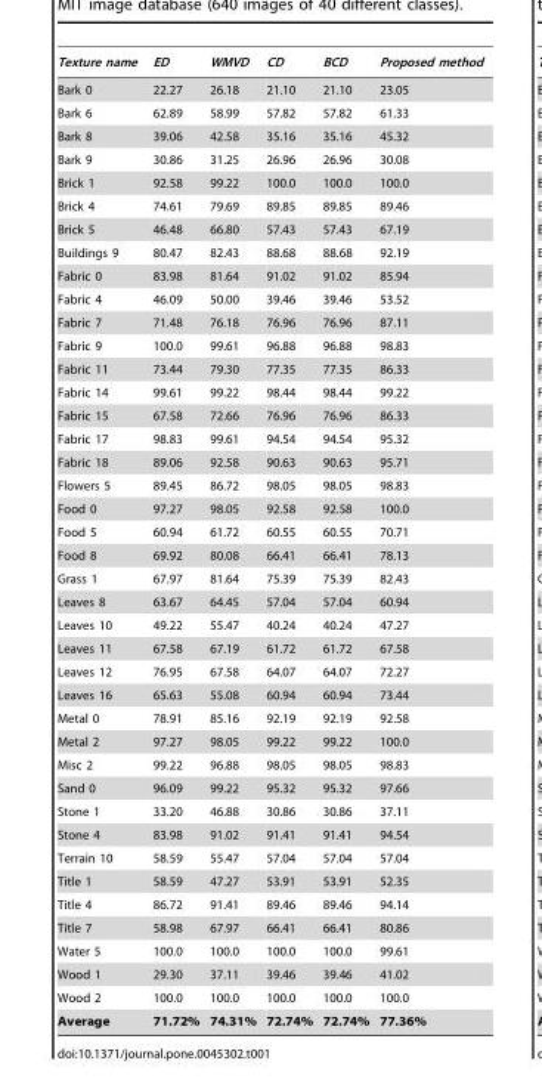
<table><thead><tr><td>Texture name</td><td>ED</td><td>WMVD</td><td>CD</td><td>BCD</td><td>Proposed method</td></tr></thead><tbody><tr><td>Bark 0</td><td>22.27</td><td>26.18</td><td>21.10</td><td>21.10</td><td>23.05</td></tr><tr><td>Bark 6</td><td>62.89</td><td>58.99</td><td>57.82</td><td>57.82</td><td>61.33</td></tr><tr><td>Bark 8</td><td>39.06</td><td>42.58</td><td>35.16</td><td>35.16</td><td>45.32</td></tr><tr><td>Bark 9</td><td>30.86</td><td>31.25</td><td>26.96</td><td>26.96</td><td>30.08</td></tr><tr><td>Brick 1</td><td>92.58</td><td>99.22</td><td>100.0</td><td>100.0</td><td>100.0</td></tr><tr><td>Brick 4</td><td>74.61</td><td>79.69</td><td>89.85</td><td>89.85</td><td>89.46</td></tr><tr><td>Brick 5</td><td>46.48</td><td>66.80</td><td>57.43</td><td>57.43</td><td>67.19</td></tr><tr><td>Buildings 9</td><td>80.47</td><td>82.43</td><td>88.68</td><td>88.68</td><td>92.19</td></tr><tr><td>Fabric 0</td><td>83.98</td><td>81.64</td><td>91.02</td><td>91.02</td><td>85.94</td></tr><tr><td>Fabric 4</td><td>46.09</td><td>50.00</td><td>39.46</td><td>39.46</td><td>53.52</td></tr><tr><td>Fabric 7</td><td>71.48</td><td>76.18</td><td>76.96</td><td>76.96</td><td>87.11</td></tr><tr><td>Fabric 9</td><td>100.0</td><td>99.61</td><td>96.88</td><td>96.88</td><td>98.83</td></tr><tr><td>Fabric 11</td><td>73.44</td><td>79.30</td><td>77.35</td><td>77.35</td><td>86.33</td></tr><tr><td>Fabric 14</td><td>99.61</td><td>99.22</td><td>98.44</td><td>98.44</td><td>99.22</td></tr><tr><td>Fabric 15</td><td>67.58</td><td>72.66</td><td>76.96</td><td>76.96</td><td>86.33</td></tr><tr><td>Fabric 17</td><td>98.83</td><td>99.61</td><td>94.54</td><td>94.54</td><td>95.32</td></tr><tr><td>Fabric 18</td><td>89.06</td><td>92.58</td><td>90.63</td><td>90.63</td><td>95.71</td></tr><tr><td>Flowers 5</td><td>89.45</td><td>86.72</td><td>98.05</td><td>98.05</td><td>98.83</td></tr><tr><td>Food 0</td><td>97.27</td><td>98.05</td><td>92.58</td><td>92.58</td><td>100.0</td></tr><tr><td>Food 5</td><td>60.94</td><td>61.72</td><td>60.55</td><td>60.55</td><td>70.71</td></tr><tr><td>Food 8</td><td>69.92</td><td>80.08</td><td>66.41</td><td>66.41</td><td>78.13</td></tr><tr><td>Grass 1</td><td>67.97</td><td>81.64</td><td>75.39</td><td>75.39</td><td>82.43</td></tr><tr><td>Leaves 8</td><td>63.67</td><td>64.45</td><td>57.04</td><td>57.04</td><td>60.94</td></tr><tr><td>Leaves 10</td><td>49.22</td><td>55.47</td><td>40.24</td><td>40.24</td><td>47.27</td></tr><tr><td>Leaves 11</td><td>67.58</td><td>67.19</td><td>61.72</td><td>61.72</td><td>67.58</td></tr><tr><td>Leaves 12</td><td>76.95</td><td>67.58</td><td>64.07</td><td>64.07</td><td>72.27</td></tr><tr><td>Leaves 16</td><td>65.63</td><td>55.08</td><td>60.94</td><td>60.94</td><td>73.44</td></tr><tr><td>Metal 0</td><td>78.91</td><td>85.16</td><td>92.19</td><td>92.19</td><td>92.58</td></tr><tr><td>Metal 2</td><td>97.27</td><td>98.05</td><td>99.22</td><td>99.22</td><td>100.0</td></tr><tr><td>Misc 2</td><td>99.22</td><td>96.88</td><td>98.05</td><td>98.05</td><td>98.83</td></tr><tr><td>Sand 0</td><td>96.09</td><td>99.22</td><td>95.32</td><td>95.32</td><td>97.66</td></tr><tr><td>Stone 1</td><td>33.20</td><td>46.88</td><td>30.86</td><td>30.86</td><td>37.11</td></tr><tr><td>Stone 4</td><td>83.98</td><td>91.02</td><td>91.41</td><td>91.41</td><td>94.54</td></tr><tr><td>Terrain 10</td><td>58.59</td><td>55.47</td><td>57.04</td><td>57.04</td><td>57.04</td></tr><tr><td>Title 1</td><td>58.59</td><td>47.27</td><td>53.91</td><td>53.91</td><td>52.35</td></tr><tr><td>Title 4</td><td>86.72</td><td>91.41</td><td>89.46</td><td>89.46</td><td>94.14</td></tr><tr><td>Title 7</td><td>58.98</td><td>67.97</td><td>66.41</td><td>66.41</td><td>80.86</td></tr><tr><td>Water 5</td><td>100.0</td><td>100.0</td><td>100.0</td><td>100.0</td><td>99.61</td></tr><tr><td>Wood 1</td><td>29.30</td><td>37.11</td><td>39.46</td><td>39.46</td><td>41.02</td></tr><tr><td>Wood 2</td><td>100.0</td><td>100.0</td><td>100.0</td><td>100.0</td><td>100.0</td></tr><tr><td>Average</td><td>71.72%</td><td>74.31%</td><td>72.74%</td><td>72.74%</td><td>77.36%</td></tr></tbody></table>